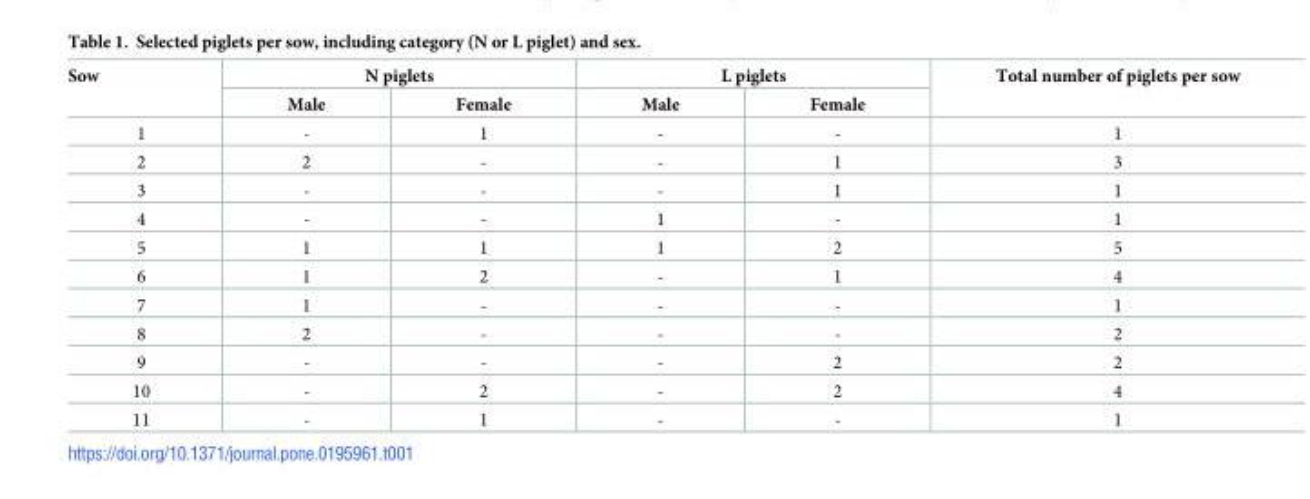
<table><thead><tr><td rowspan="2">Sow</td><td colspan="2">N piglets</td><td colspan="2">L piglets</td><td rowspan="2">Total number of piglets per sow</td></tr><tr><td>Male</td><td>Female</td><td>Male</td><td>Female</td></tr></thead><tbody><tr><td>1</td><td>-</td><td>1</td><td>-</td><td>-</td><td>1</td></tr><tr><td>2</td><td>2</td><td>-</td><td>-</td><td>1</td><td>3</td></tr><tr><td>3</td><td>-</td><td>-</td><td>-</td><td>1</td><td>1</td></tr><tr><td>4</td><td>-</td><td>-</td><td>1</td><td>-</td><td>1</td></tr><tr><td>5</td><td>1</td><td>1</td><td>1</td><td>2</td><td>5</td></tr><tr><td>6</td><td>1</td><td>2</td><td>-</td><td>1</td><td>4</td></tr><tr><td>7</td><td>1</td><td>-</td><td>-</td><td>-</td><td>1</td></tr><tr><td>8</td><td>2</td><td>-</td><td>-</td><td>-</td><td>2</td></tr><tr><td>9</td><td>-</td><td>-</td><td>-</td><td>2</td><td>2</td></tr><tr><td>10</td><td>-</td><td>2</td><td>-</td><td>2</td><td>4</td></tr><tr><td>11</td><td>-</td><td>1</td><td>-</td><td>-</td><td>1</td></tr></tbody></table>